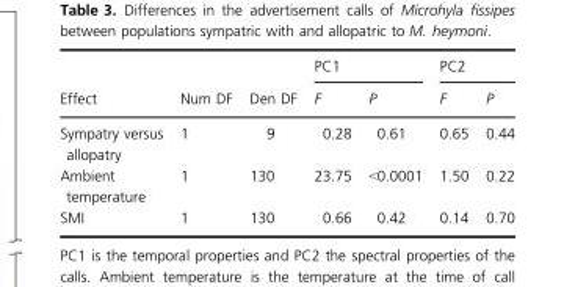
<table><thead><tr><td rowspan="2">Effect</td><td rowspan="2">Num DF</td><td rowspan="2">Den DF</td><td colspan="2">PC1</td><td colspan="2">PC2</td></tr><tr><td>F</td><td>P</td><td>F</td><td>P</td></tr></thead><tbody><tr><td>Sympatry versus allopatry</td><td>1</td><td>9</td><td>0.28</td><td>0.61</td><td>0.65</td><td>0.44</td></tr><tr><td>Ambient temperature</td><td>1</td><td>130</td><td>23.75</td><td>&lt;0.0001</td><td>1.50</td><td>0.22</td></tr><tr><td>SMI</td><td>1</td><td>130</td><td>0.66</td><td>0.42</td><td>0.14</td><td>0.70</td></tr></tbody></table>